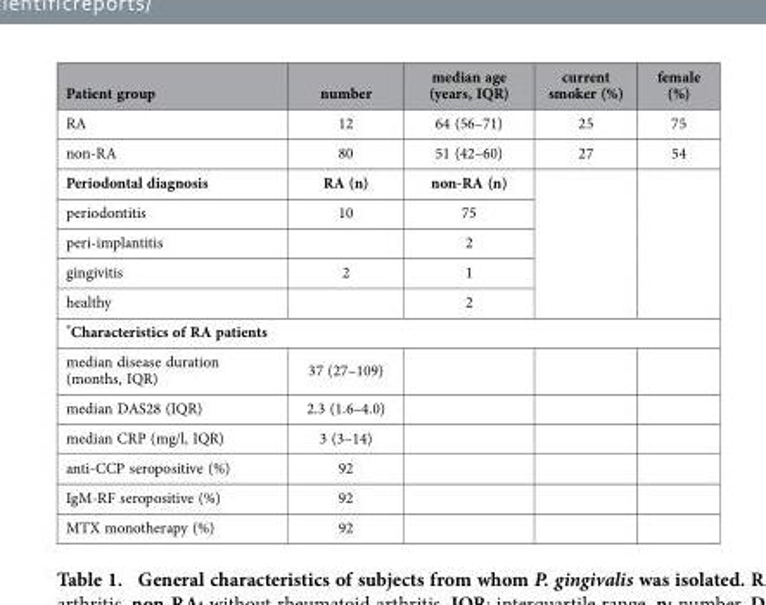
<table><thead><tr><td>Patient group</td><td>number</td><td>median age (years, IQR)</td><td>current smoker (%)</td><td>female (%)</td></tr></thead><tbody><tr><td>RA</td><td>12</td><td>64 (56–71)</td><td>25</td><td>75</td></tr><tr><td>non-RA</td><td>80</td><td>51 (42–60)</td><td>27</td><td>54</td></tr><tr><td>Periodontal diagnosis</td><td>RA (n)</td><td>non-RA (n)</td><td rowspan="5"></td><td rowspan="5"></td></tr><tr><td>periodontitis</td><td>10</td><td>75</td></tr><tr><td>peri-implantitis</td><td></td><td>2</td></tr><tr><td>gingivitis</td><td>2</td><td>1</td></tr><tr><td>healthy</td><td></td><td>2</td></tr><tr><td colspan="5">*Characteristics of RA patients</td></tr><tr><td>median disease duration (months, IQR)</td><td>37 (27–109)</td><td></td><td></td><td></td></tr><tr><td>median DAS28 (IQR)</td><td>2.3 (1.6–4.0)</td><td></td><td></td><td></td></tr><tr><td>median CRP (mg/l, IQR)</td><td>3 (3–14)</td><td></td><td></td><td></td></tr><tr><td>anti-CCP seropositive (%)</td><td>92</td><td></td><td></td><td></td></tr><tr><td>IgM-RF seropositive (%)</td><td>92</td><td></td><td></td><td></td></tr><tr><td>MTX monotherapy (%)</td><td>92</td><td></td><td></td><td></td></tr></tbody></table>